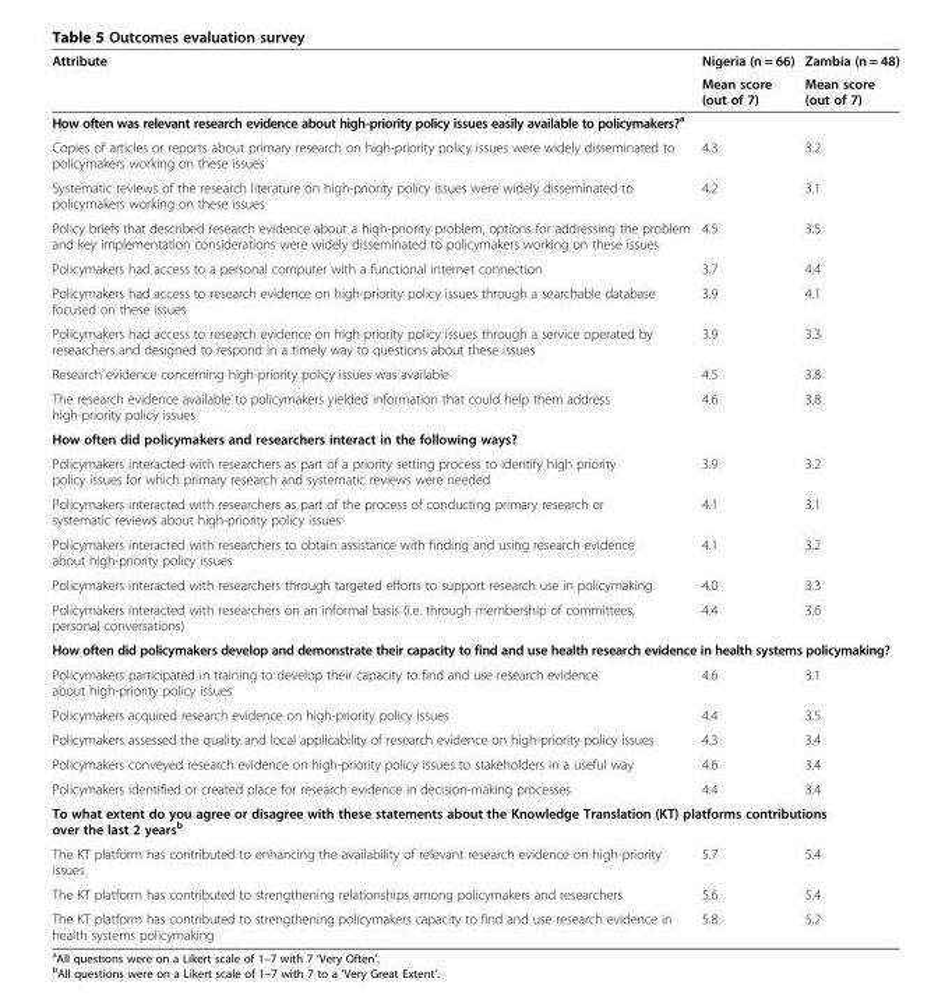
<table><thead><tr><td rowspan="2">Attribute</td><td rowspan="2">Nigeria (n = 66) Mean score (out of 7)</td><td rowspan="2">Zambia (n = 48) Mean score (out of 7)</td></tr><tr></tr></thead><tbody><tr><td colspan="3">How often was relevant research evidence about high-priority policy issues easily available to policymakers?<sup>a</sup></td></tr><tr><td>Copies of articles or reports about primary research on high-priority policy issues were widely disseminated to policymakers working on these issues</td><td>4.3</td><td>3.2</td></tr><tr><td>Systematic reviews of the research literature on high-priority policy issues were widely disseminated to policymakers working on these issues</td><td>4.2</td><td>3.1</td></tr><tr><td>Policy briefs that described research evidence about a high-priority problem, options for addressing the problem and key implementation considerations were widely disseminated to policymakers working on these issues</td><td>4.5</td><td>3.5</td></tr><tr><td>Policymakers had access to a personal computer with a functional internet connection</td><td>3.7</td><td>4.4</td></tr><tr><td>Policymakers had access to research evidence on high-priority policy issues through a searchable database focused on these issues</td><td>3.9</td><td>4.1</td></tr><tr><td>Policymakers had access to research evidence on high-priority policy issues through a service operated by researchers and designed to respond in a timely way to questions about these issues</td><td>3.9</td><td>3.3</td></tr><tr><td>Research evidence concerning high-priority policy issues was available</td><td>4.5</td><td>3.8</td></tr><tr><td>The research evidence available to policymakers yielded information that could help them address high-priority policy issues</td><td>4.6</td><td>3.8</td></tr><tr><td colspan="3">How often did policymakers and researchers interact in the following ways?</td></tr><tr><td>Policymakers interacted with researchers as part of a priority setting process to identify high priority policy issues for which primary research and systematic reviews were needed</td><td>3.9</td><td>3.2</td></tr><tr><td>Policymakers interacted with researchers as part of the process of conducting primary research or systematic reviews about high-priority policy issues</td><td>4.1</td><td>3.1</td></tr><tr><td>Policymakers interacted with researchers to obtain assistance with finding and using research evidence about high-priority policy issues</td><td>4.1</td><td>3.2</td></tr><tr><td>Policymakers interacted with researchers through targeted efforts to support research use in policymaking</td><td>4.0</td><td>3.3</td></tr><tr><td>Policymakers interacted with researchers on an informal basis (i.e. through membership of committees, personal conversations)</td><td>4.4</td><td>3.6</td></tr><tr><td colspan="3">How often did policymakers develop and demonstrate their capacity to find and use health research evidence in health systems policymaking?</td></tr><tr><td>Policymakers participated in training to develop their capacity to find and use research evidence about high-priority policy issues</td><td>4.6</td><td>3.1</td></tr><tr><td>Policymakers acquired research evidence on high-priority policy issues</td><td>4.4</td><td>3.5</td></tr><tr><td>Policymakers assessed the quality and local applicability of research evidence on high-priority policy issues</td><td>4.3</td><td>3.4</td></tr><tr><td>Policymakers conveyed research evidence on high-priority policy issues to stakeholders in a useful way</td><td>4.6</td><td>3.4</td></tr><tr><td>Policymakers identified or created place for research evidence in decision-making processes</td><td>4.4</td><td>3.4</td></tr><tr><td colspan="3">To what extent do you agree or disagree with these statements about the Knowledge Translation (KT) platforms contributions over the last 2 years<sup>b</sup></td></tr><tr><td>The KT platform has contributed to enhancing the availability of relevant research evidence on high-priority issues</td><td>5.7</td><td>5.4</td></tr><tr><td>The KT platform has contributed to strengthening relationships among policymakers and researchers</td><td>5.6</td><td>5.4</td></tr><tr><td>The KT platform has contributed to strengthening policymakers capacity to find and use research evidence in health systems policymaking</td><td>5.8</td><td>5.2</td></tr></tbody></table>